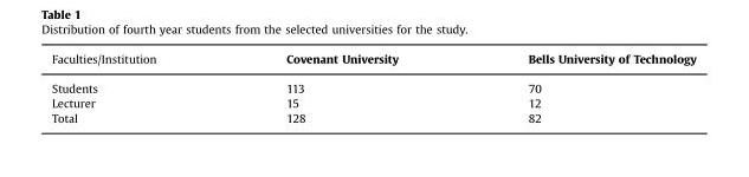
<table><thead><tr><td>Faculties/Institution</td><td>Covenant University</td><td>Bells University of Technology</td></tr></thead><tbody><tr><td>Students</td><td>113</td><td>70</td></tr><tr><td>Lecturer</td><td>15</td><td>12</td></tr><tr><td>Total</td><td>128</td><td>82</td></tr></tbody></table>